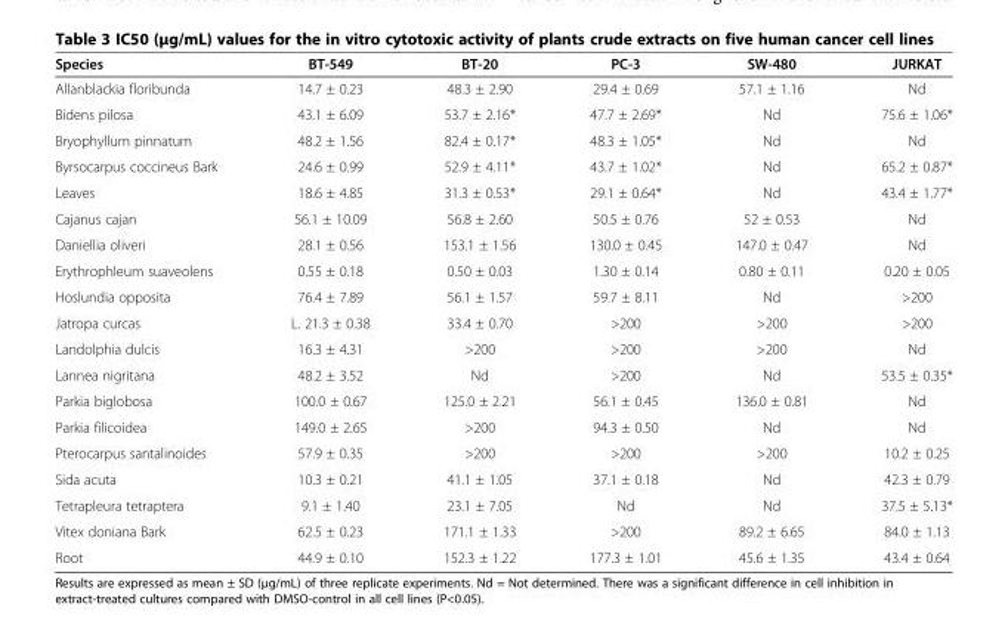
<table><thead><tr><td>Species</td><td>BT-549</td><td>BT-20</td><td>PC-3</td><td>SW-480</td><td>JURKAT</td></tr></thead><tbody><tr><td>Allanblackia floribunda</td><td>14.7 ± 0.23</td><td>48.3 ± 2.90</td><td>29.4 ± 0.69</td><td>57.1 ± 1.16</td><td>Nd</td></tr><tr><td>Bidens pilosa</td><td>43.1 ± 6.09</td><td>53.7 ± 2.16*</td><td>47.7 ± 2.69*</td><td>Nd</td><td>75.6 ± 1.06*</td></tr><tr><td>Bryophyllum pinnatum</td><td>48.2 ± 1.56</td><td>82.4 ± 0.17*</td><td>48.3 ± 1.05*</td><td>Nd</td><td>Nd</td></tr><tr><td>Byrsocarpus coccineus Bark</td><td>24.6 ± 0.99</td><td>52.9 ± 4.11*</td><td>43.7 ± 1.02*</td><td>Nd</td><td>65.2 ± 0.87*</td></tr><tr><td>Leaves</td><td>18.6 ± 4.85</td><td>31.3 ± 0.53*</td><td>29.1 ± 0.64*</td><td>Nd</td><td>43.4 ± 1.77*</td></tr><tr><td>Cajanus cajan</td><td>56.1 ± 10.09</td><td>56.8 ± 2.60</td><td>50.5 ± 0.76</td><td>52 ± 0.53</td><td>Nd</td></tr><tr><td>Daniellia oliveri</td><td>28.1 ± 0.56</td><td>153.1 ± 1.56</td><td>130.0 ± 0.45</td><td>147.0 ± 0.47</td><td>Nd</td></tr><tr><td>Erythrophleum suaveolens</td><td>0.55 ± 0.18</td><td>0.50 ± 0.03</td><td>1.30 ± 0.14</td><td>0.80 ± 0.11</td><td>0.20 ± 0.05</td></tr><tr><td>Hoslundia opposita</td><td>76.4 ± 7.89</td><td>56.1 ± 1.57</td><td>59.7 ± 8.11</td><td>Nd</td><td>&gt;200</td></tr><tr><td>Jatropa curcas</td><td>L. 21.3 ± 0.38</td><td>33.4 ± 0.70</td><td>&gt;200</td><td>&gt;200</td><td>&gt;200</td></tr><tr><td>Landolphia dulcis</td><td>16.3 ± 4.31</td><td>&gt;200</td><td>&gt;200</td><td>&gt;200</td><td>Nd</td></tr><tr><td>Lannea nigritana</td><td>48.2 ± 3.52</td><td>Nd</td><td>&gt;200</td><td>Nd</td><td>53.5 ± 0.35*</td></tr><tr><td>Parkia biglobosa</td><td>100.0 ± 0.67</td><td>125.0 ± 2.21</td><td>56.1 ± 0.45</td><td>136.0 ± 0.81</td><td>Nd</td></tr><tr><td>Parkia filicoidea</td><td>149.0 ± 2.65</td><td>&gt;200</td><td>94.3 ± 0.50</td><td>Nd</td><td>Nd</td></tr><tr><td>Pterocarpus santalinoides</td><td>57.9 ± 0.35</td><td>&gt;200</td><td>&gt;200</td><td>&gt;200</td><td>10.2 ± 0.25</td></tr><tr><td>Sida acuta</td><td>10.3 ± 0.21</td><td>41.1 ± 1.05</td><td>37.1 ± 0.18</td><td>Nd</td><td>42.3 ± 0.79</td></tr><tr><td>Tetrapleura tetraptera</td><td>9.1 ± 1.40</td><td>23.1 ± 7.05</td><td>Nd</td><td>Nd</td><td>37.5 ± 5.13*</td></tr><tr><td>Vitex doniana Bark</td><td>62.5 ± 0.23</td><td>171.1 ± 1.33</td><td>&gt;200</td><td>89.2 ± 6.65</td><td>84.0 ± 1.13</td></tr><tr><td>Root</td><td>44.9 ± 0.10</td><td>152.3 ± 1.22</td><td>177.3 ± 1.01</td><td>45.6 ± 1.35</td><td>43.4 ± 0.64</td></tr></tbody></table>